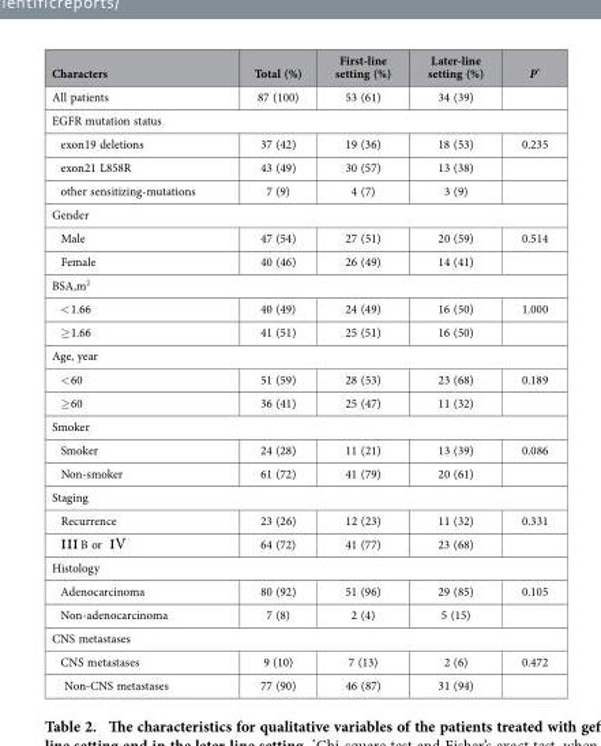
<table><thead><tr><td>Characters</td><td>Total (%)</td><td>First-line setting (%)</td><td>Later-line setting (%)</td><td>P*</td></tr></thead><tbody><tr><td>All patients</td><td>87 (100)</td><td>53 (61)</td><td>34 (39)</td><td></td></tr><tr><td colspan="5">EGFR mutation status</td></tr><tr><td>exon19 deletions</td><td>37 (42)</td><td>19 (36)</td><td>18 (53)</td><td>0.235</td></tr><tr><td>exon21 L858R</td><td>43 (49)</td><td>30 (57)</td><td>13 (38)</td><td></td></tr><tr><td>other sensitizing-mutations</td><td>7 (9)</td><td>4 (7)</td><td>3 (9)</td><td></td></tr><tr><td colspan="5">Gender</td></tr><tr><td>Male</td><td>47 (54)</td><td>27 (51)</td><td>20 (59)</td><td>0.514</td></tr><tr><td>Female</td><td>40 (46)</td><td>26 (49)</td><td>14 (41)</td><td></td></tr><tr><td colspan="5">BSA,m<sup>2</sup></td></tr><tr><td>&lt; 1.66</td><td>40 (49)</td><td>24 (49)</td><td>16 (50)</td><td>1.000</td></tr><tr><td>≥ 1.66</td><td>41 (51)</td><td>25 (51)</td><td>16 (50)</td><td></td></tr><tr><td colspan="5">Age, year</td></tr><tr><td>&lt; 60</td><td>51 (59)</td><td>28 (53)</td><td>23 (68)</td><td>0.189</td></tr><tr><td>≥ 60</td><td>36 (41)</td><td>25 (47)</td><td>11 (32)</td><td></td></tr><tr><td colspan="5">Smoker</td></tr><tr><td>Smoker</td><td>24 (28)</td><td>11 (21)</td><td>13 (39)</td><td>0.086</td></tr><tr><td>Non-smoker</td><td>61 (72)</td><td>41 (79)</td><td>20 (61)</td><td></td></tr><tr><td colspan="5">Staging</td></tr><tr><td>Recurrence</td><td>23 (26)</td><td>12 (23)</td><td>11 (32)</td><td>0.331</td></tr><tr><td>ııı B or ıV</td><td>64 (72)</td><td>41 (77)</td><td>23 (68)</td><td></td></tr><tr><td colspan="5">Histology</td></tr><tr><td>Adenocarcinoma</td><td>80 (92)</td><td>51 (96)</td><td>29 (85)</td><td>0.105</td></tr><tr><td>Non-adenocarcinoma</td><td>7 (8)</td><td>2 (4)</td><td>5 (15)</td><td></td></tr><tr><td colspan="5">CNS metastases</td></tr><tr><td>CNS metastases</td><td>9 (10)</td><td>7 (13)</td><td>2 (6)</td><td>0.472</td></tr><tr><td>Non-CNS metastases</td><td>77 (90)</td><td>46 (87)</td><td>31 (94)</td><td></td></tr></tbody></table>